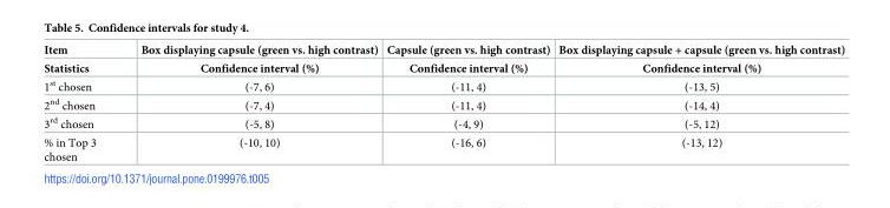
<table><thead><tr><td rowspan="2">Item Statistics</td><td rowspan="2">Box displaying capsule (green vs. high contrast) Confidence interval (%)</td><td rowspan="2">Capsule (green vs. high contrast) Confidence interval (%)</td><td rowspan="2">Box displaying capsule + capsule (green vs. high contrast) Confidence interval (%)</td></tr><tr></tr></thead><tbody><tr><td>1<sup>st</sup> chosen</td><td>(-7, 6)</td><td>(-11, 4)</td><td>(-13, 5)</td></tr><tr><td>2<sup>nd</sup> chosen</td><td>(-7, 4)</td><td>(-11, 4)</td><td>(-14, 4)</td></tr><tr><td>3<sup>rd</sup> chosen</td><td>(-5, 8)</td><td>(-4, 9)</td><td>(-5, 12)</td></tr><tr><td>% in Top 3 chosen</td><td>(-10, 10)</td><td>(-16, 6)</td><td>(-13, 12)</td></tr></tbody></table>